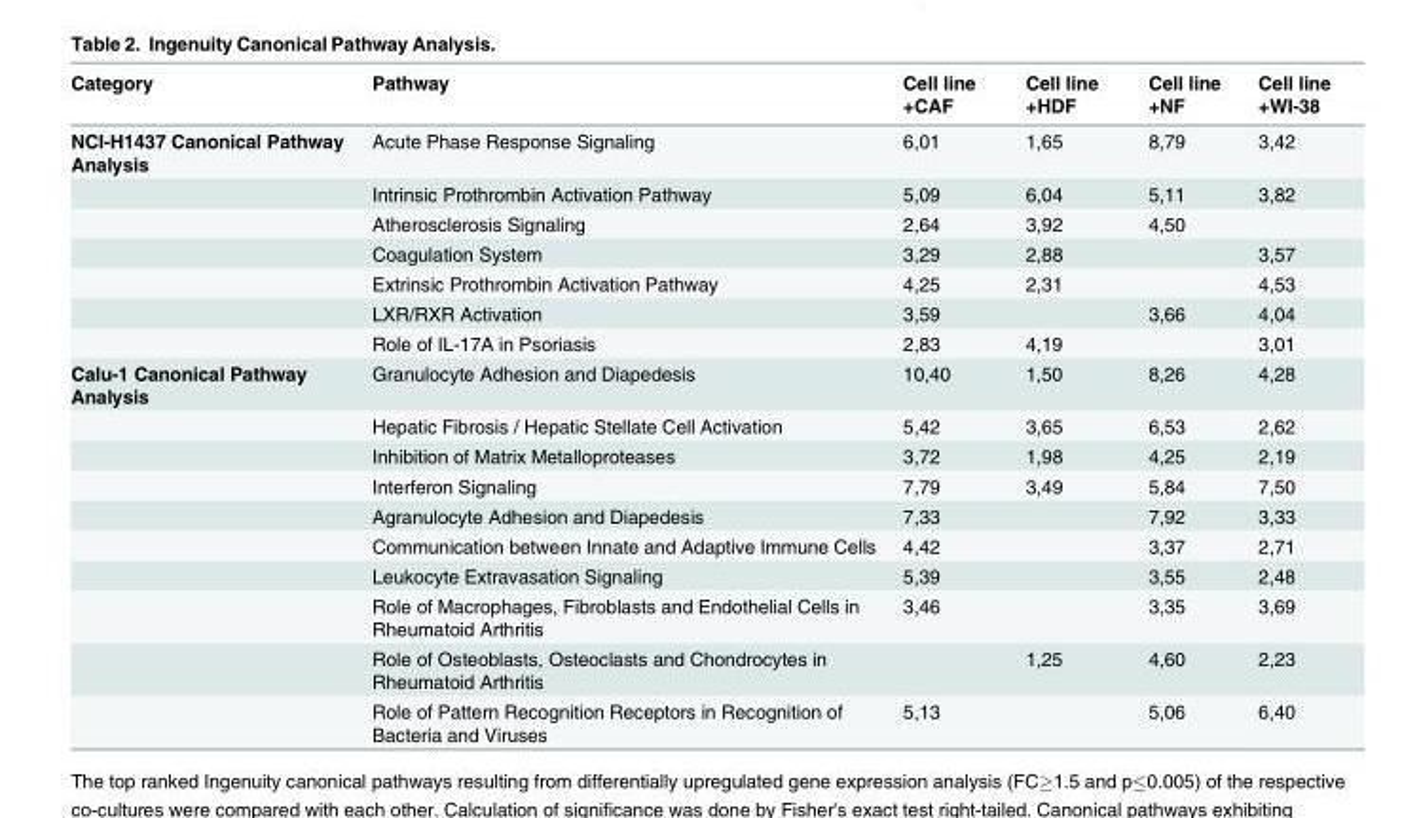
<table><thead><tr><td>Category</td><td>Pathway</td><td>Cell line +CAF</td><td>Cell line +HDF</td><td>Cell line +NF</td><td>Cell line +WI-38</td></tr></thead><tbody><tr><td rowspan="7">NCI-H1437 Canonical Pathway Analysis</td><td>Acute Phase Response Signaling</td><td>6,01</td><td>1,65</td><td>8,79</td><td>3,42</td></tr><tr><td>Intrinsic Prothrombin Activation Pathway</td><td>5,09</td><td>6,04</td><td>5,11</td><td>3,82</td></tr><tr><td>Atherosclerosis Signaling</td><td>2,64</td><td>3,92</td><td>4,50</td><td></td></tr><tr><td>Coagulation System</td><td>3,29</td><td>2,88</td><td></td><td>3,57</td></tr><tr><td>Extrinsic Prothrombin Activation Pathway</td><td>4,25</td><td>2,31</td><td></td><td>4,53</td></tr><tr><td>LXR/RXR Activation</td><td>3,59</td><td></td><td>3,66</td><td>4,04</td></tr><tr><td>Role of IL-17A in Psoriasis</td><td>2,83</td><td>4,19</td><td></td><td>3,01</td></tr><tr><td rowspan="10">Calu-1 Canonical Pathway Analysis</td><td>Granulocyte Adhesion and Diapedesis</td><td>10,40</td><td>1,50</td><td>8,26</td><td>4,28</td></tr><tr><td>Hepatic Fibrosis / Hepatic Stellate Cell Activation</td><td>5,42</td><td>3,65</td><td>6,53</td><td>2,62</td></tr><tr><td>Inhibition of Matrix Metalloproteases</td><td>3,72</td><td>1,98</td><td>4,25</td><td>2,19</td></tr><tr><td>Interferon Signaling</td><td>7,79</td><td>3,49</td><td>5,84</td><td>7,50</td></tr><tr><td>Agranulocyte Adhesion and Diapedesis</td><td>7,33</td><td></td><td>7,92</td><td>3,33</td></tr><tr><td>Communication between Innate and Adaptive Immune Cells</td><td>4,42</td><td></td><td>3,37</td><td>2,71</td></tr><tr><td>Leukocyte Extravasation Signaling</td><td>5,39</td><td></td><td>3,55</td><td>2,48</td></tr><tr><td>Role of Macrophages, Fibroblasts and Endothelial Cells in Rheumatoid Arthritis</td><td>3,46</td><td></td><td>3,35</td><td>3,69</td></tr><tr><td>Role of Osteoblasts, Osteoclasts and Chondrocytes in Rheumatoid Arthritis</td><td></td><td>1,25</td><td>4,60</td><td>2,23</td></tr><tr><td>Role of Pattern Recognition Receptors in Recognition of Bacteria and Viruses</td><td>5,13</td><td></td><td>5,06</td><td>6,40</td></tr></tbody></table>